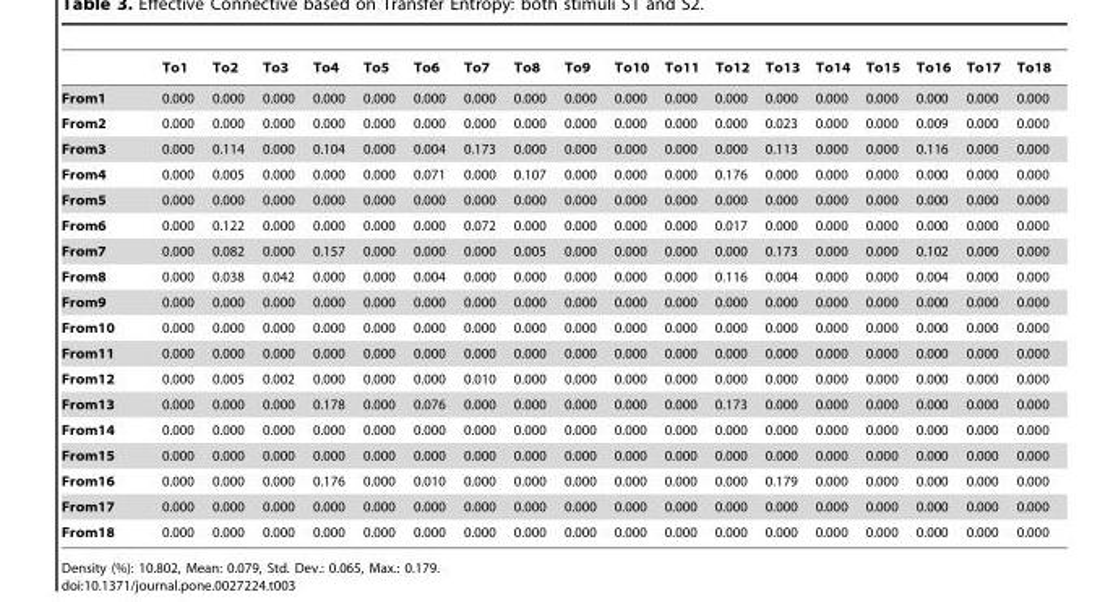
<table><thead><tr><td></td><td>To1</td><td>To2</td><td>To3</td><td>To4</td><td>To5</td><td>To6</td><td>To7</td><td>To8</td><td>To9</td><td>To10</td><td>To11</td><td>To12</td><td>To13</td><td>To14</td><td>To15</td><td>To16</td><td>To17</td><td>To18</td></tr></thead><tbody><tr><td>From1</td><td>0.000</td><td>0.000</td><td>0.000</td><td>0.000</td><td>0.000</td><td>0.000</td><td>0.000</td><td>0.000</td><td>0.000</td><td>0.000</td><td>0.000</td><td>0.000</td><td>0.000</td><td>0.000</td><td>0.000</td><td>0.000</td><td>0.000</td><td>0.000</td></tr><tr><td>From2</td><td>0.000</td><td>0.000</td><td>0.000</td><td>0.000</td><td>0.000</td><td>0.000</td><td>0.000</td><td>0.000</td><td>0.000</td><td>0.000</td><td>0.000</td><td>0.000</td><td>0.023</td><td>0.000</td><td>0.000</td><td>0.009</td><td>0.000</td><td>0.000</td></tr><tr><td>From3</td><td>0.000</td><td>0.114</td><td>0.000</td><td>0.104</td><td>0.000</td><td>0.004</td><td>0.173</td><td>0.000</td><td>0.000</td><td>0.000</td><td>0.000</td><td>0.000</td><td>0.113</td><td>0.000</td><td>0.000</td><td>0.116</td><td>0.000</td><td>0.000</td></tr><tr><td>From4</td><td>0.000</td><td>0.005</td><td>0.000</td><td>0.000</td><td>0.000</td><td>0.071</td><td>0.000</td><td>0.107</td><td>0.000</td><td>0.000</td><td>0.000</td><td>0.176</td><td>0.000</td><td>0.000</td><td>0.000</td><td>0.000</td><td>0.000</td><td>0.000</td></tr><tr><td>From5</td><td>0.000</td><td>0.000</td><td>0.000</td><td>0.000</td><td>0.000</td><td>0.000</td><td>0.000</td><td>0.000</td><td>0.000</td><td>0.000</td><td>0.000</td><td>0.000</td><td>0.000</td><td>0.000</td><td>0.000</td><td>0.000</td><td>0.000</td><td>0.000</td></tr><tr><td>From6</td><td>0.000</td><td>0.122</td><td>0.000</td><td>0.000</td><td>0.000</td><td>0.000</td><td>0.072</td><td>0.000</td><td>0.000</td><td>0.000</td><td>0.000</td><td>0.017</td><td>0.000</td><td>0.000</td><td>0.000</td><td>0.000</td><td>0.000</td><td>0.000</td></tr><tr><td>From7</td><td>0.000</td><td>0.082</td><td>0.000</td><td>0.157</td><td>0.000</td><td>0.000</td><td>0.000</td><td>0.005</td><td>0.000</td><td>0.000</td><td>0.000</td><td>0.000</td><td>0.173</td><td>0.000</td><td>0.000</td><td>0.102</td><td>0.000</td><td>0.000</td></tr><tr><td>From8</td><td>0.000</td><td>0.038</td><td>0.042</td><td>0.000</td><td>0.000</td><td>0.004</td><td>0.000</td><td>0.000</td><td>0.000</td><td>0.000</td><td>0.000</td><td>0.116</td><td>0.004</td><td>0.000</td><td>0.000</td><td>0.004</td><td>0.000</td><td>0.000</td></tr><tr><td>From9</td><td>0.000</td><td>0.000</td><td>0.000</td><td>0.000</td><td>0.000</td><td>0.000</td><td>0.000</td><td>0.000</td><td>0.000</td><td>0.000</td><td>0.000</td><td>0.000</td><td>0.000</td><td>0.000</td><td>0.000</td><td>0.000</td><td>0.000</td><td>0.000</td></tr><tr><td>From10</td><td>0.000</td><td>0.000</td><td>0.000</td><td>0.000</td><td>0.000</td><td>0.000</td><td>0.000</td><td>0.000</td><td>0.000</td><td>0.000</td><td>0.000</td><td>0.000</td><td>0.000</td><td>0.000</td><td>0.000</td><td>0.000</td><td>0.000</td><td>0.000</td></tr><tr><td>From11</td><td>0.000</td><td>0.000</td><td>0.000</td><td>0.000</td><td>0.000</td><td>0.000</td><td>0.000</td><td>0.000</td><td>0.000</td><td>0.000</td><td>0.000</td><td>0.000</td><td>0.000</td><td>0.000</td><td>0.000</td><td>0.000</td><td>0.000</td><td>0.000</td></tr><tr><td>From12</td><td>0.000</td><td>0.005</td><td>0.002</td><td>0.000</td><td>0.000</td><td>0.000</td><td>0.010</td><td>0.000</td><td>0.000</td><td>0.000</td><td>0.000</td><td>0.000</td><td>0.000</td><td>0.000</td><td>0.000</td><td>0.000</td><td>0.000</td><td>0.000</td></tr><tr><td>From13</td><td>0.000</td><td>0.000</td><td>0.000</td><td>0.178</td><td>0.000</td><td>0.076</td><td>0.000</td><td>0.000</td><td>0.000</td><td>0.000</td><td>0.000</td><td>0.173</td><td>0.000</td><td>0.000</td><td>0.000</td><td>0.000</td><td>0.000</td><td>0.000</td></tr><tr><td>From14</td><td>0.000</td><td>0.000</td><td>0.000</td><td>0.000</td><td>0.000</td><td>0.000</td><td>0.000</td><td>0.000</td><td>0.000</td><td>0.000</td><td>0.000</td><td>0.000</td><td>0.000</td><td>0.000</td><td>0.000</td><td>0.000</td><td>0.000</td><td>0.000</td></tr><tr><td>From15</td><td>0.000</td><td>0.000</td><td>0.000</td><td>0.000</td><td>0.000</td><td>0.000</td><td>0.000</td><td>0.000</td><td>0.000</td><td>0.000</td><td>0.000</td><td>0.000</td><td>0.000</td><td>0.000</td><td>0.000</td><td>0.000</td><td>0.000</td><td>0.000</td></tr><tr><td>From16</td><td>0.000</td><td>0.000</td><td>0.000</td><td>0.176</td><td>0.000</td><td>0.010</td><td>0.000</td><td>0.000</td><td>0.000</td><td>0.000</td><td>0.000</td><td>0.000</td><td>0.179</td><td>0.000</td><td>0.000</td><td>0.000</td><td>0.000</td><td>0.000</td></tr><tr><td>From17</td><td>0.000</td><td>0.000</td><td>0.000</td><td>0.000</td><td>0.000</td><td>0.000</td><td>0.000</td><td>0.000</td><td>0.000</td><td>0.000</td><td>0.000</td><td>0.000</td><td>0.000</td><td>0.000</td><td>0.000</td><td>0.000</td><td>0.000</td><td>0.000</td></tr><tr><td>From18</td><td>0.000</td><td>0.000</td><td>0.000</td><td>0.000</td><td>0.000</td><td>0.000</td><td>0.000</td><td>0.000</td><td>0.000</td><td>0.000</td><td>0.000</td><td>0.000</td><td>0.000</td><td>0.000</td><td>0.000</td><td>0.000</td><td>0.000</td><td>0.000</td></tr></tbody></table>